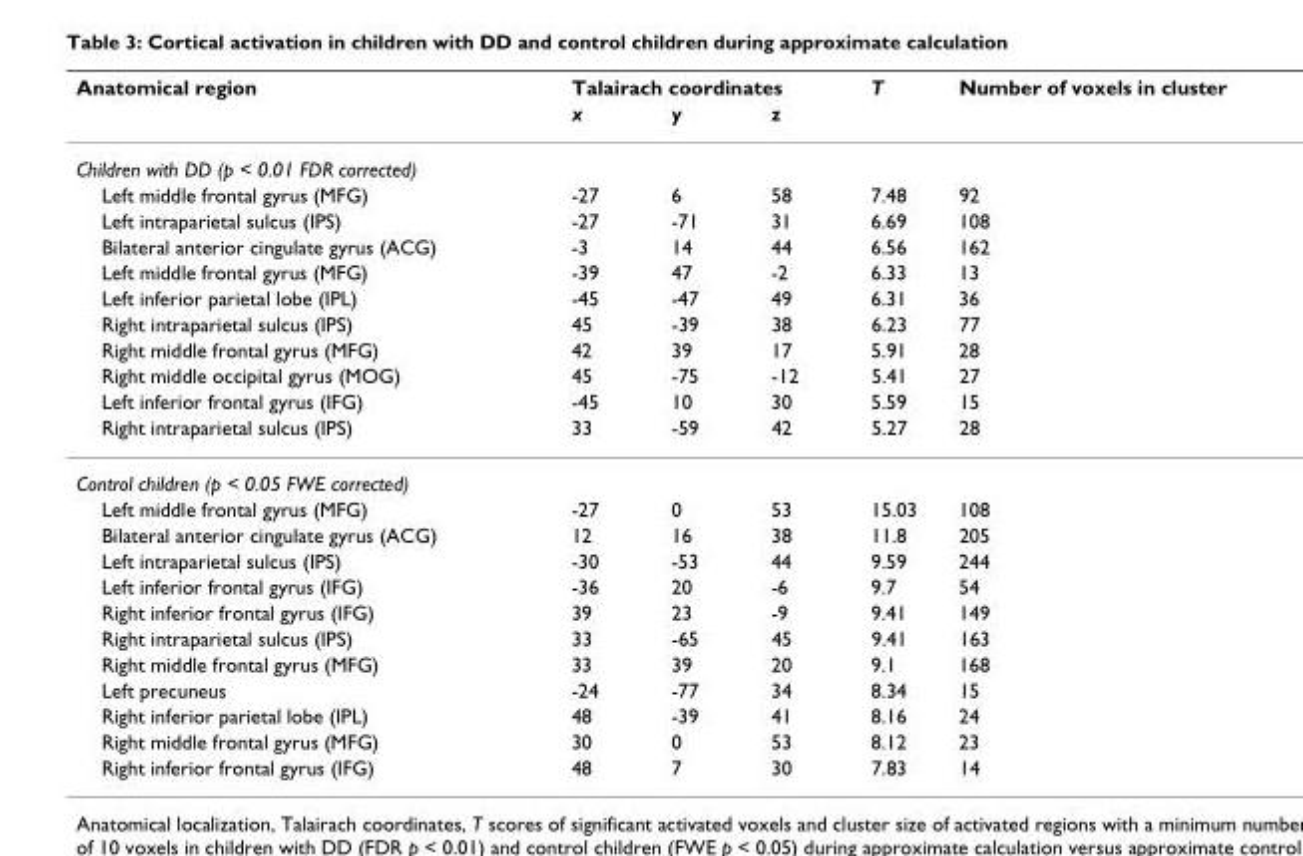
<table><thead><tr><td rowspan="2">Anatomical region</td><td colspan="3">Talairach coordinates</td><td rowspan="2">T</td><td rowspan="2">Number of voxels in cluster</td></tr><tr><td>x</td><td>y</td><td>z</td></tr></thead><tbody><tr><td colspan="6">Children with DD (p &lt; 0.01 FDR corrected)</td></tr><tr><td>Left middle frontal gyrus (MFG)</td><td>-27</td><td>6</td><td>58</td><td>7.48</td><td>92</td></tr><tr><td>Left intraparietal sulcus (IPS)</td><td>-27</td><td>-71</td><td>31</td><td>6.69</td><td>108</td></tr><tr><td>Bilateral anterior cingulate gyrus (ACG)</td><td>-3</td><td>14</td><td>44</td><td>6.56</td><td>162</td></tr><tr><td>Left middle frontal gyrus (MFG)</td><td>-39</td><td>47</td><td>-2</td><td>6.33</td><td>13</td></tr><tr><td>Left inferior parietal lobe (IPL)</td><td>-45</td><td>-47</td><td>49</td><td>6.31</td><td>36</td></tr><tr><td>Right intraparietal sulcus (IPS)</td><td>45</td><td>-39</td><td>38</td><td>6.23</td><td>77</td></tr><tr><td>Right middle frontal gyrus (MFG)</td><td>42</td><td>39</td><td>17</td><td>5.91</td><td>28</td></tr><tr><td>Right middle occipital gyrus (MOG)</td><td>45</td><td>-75</td><td>-12</td><td>5.41</td><td>27</td></tr><tr><td>Left inferior frontal gyrus (IFG)</td><td>-45</td><td>10</td><td>30</td><td>5.59</td><td>15</td></tr><tr><td>Right intraparietal sulcus (IPS)</td><td>33</td><td>-59</td><td>42</td><td>5.27</td><td>28</td></tr><tr><td colspan="6">Control children (p &lt; 0.05 FWE corrected)</td></tr><tr><td>Left middle frontal gyrus (MFG)</td><td>-27</td><td>0</td><td>53</td><td>15.03</td><td>108</td></tr><tr><td>Bilateral anterior cingulate gyrus (ACG)</td><td>12</td><td>16</td><td>38</td><td>11.8</td><td>205</td></tr><tr><td>Left intraparietal sulcus (IPS)</td><td>-30</td><td>-53</td><td>44</td><td>9.59</td><td>244</td></tr><tr><td>Left inferior frontal gyrus (IFG)</td><td>-36</td><td>20</td><td>-6</td><td>9.7</td><td>54</td></tr><tr><td>Right inferior frontal gyrus (IFG)</td><td>39</td><td>23</td><td>-9</td><td>9.41</td><td>149</td></tr><tr><td>Right intraparietal sulcus (IPS)</td><td>33</td><td>-65</td><td>45</td><td>9.41</td><td>163</td></tr><tr><td>Right middle frontal gyrus (MFG)</td><td>33</td><td>39</td><td>20</td><td>9.1</td><td>168</td></tr><tr><td>Left precuneus</td><td>-24</td><td>-77</td><td>34</td><td>8.34</td><td>15</td></tr><tr><td>Right inferior parietal lobe (IPL)</td><td>48</td><td>-39</td><td>41</td><td>8.16</td><td>24</td></tr><tr><td>Right middle frontal gyrus (MFG)</td><td>30</td><td>0</td><td>53</td><td>8.12</td><td>23</td></tr><tr><td>Right inferior frontal gyrus (IFG)</td><td>48</td><td>7</td><td>30</td><td>7.83</td><td>14</td></tr></tbody></table>